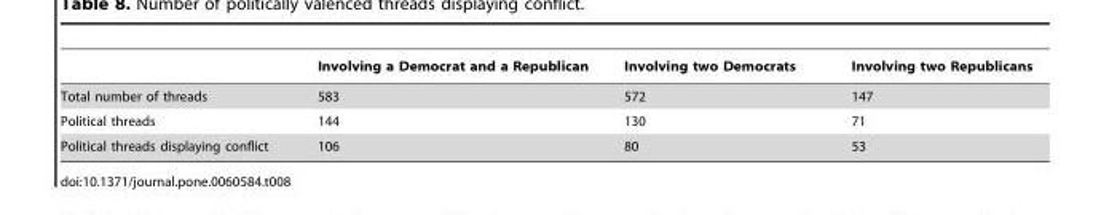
<table><thead><tr><td></td><td>Involving a Democrat and a Republican</td><td>Involving two Democrats</td><td>Involving two Republicans</td></tr></thead><tbody><tr><td>Total number of threads</td><td>583</td><td>572</td><td>147</td></tr><tr><td>Political threads</td><td>144</td><td>130</td><td>71</td></tr><tr><td>Political threads displaying conflict</td><td>106</td><td>80</td><td>53</td></tr></tbody></table>